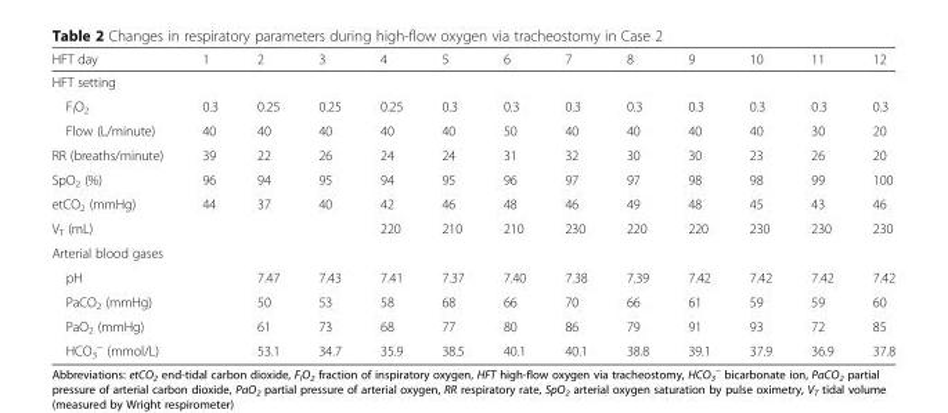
<table><thead><tr><td>HFT day</td><td>1</td><td>2</td><td>3</td><td>4</td><td>5</td><td>6</td><td>7</td><td>8</td><td>9</td><td>10</td><td>11</td><td>12</td></tr></thead><tbody><tr><td colspan="13">HFT setting</td></tr><tr><td>F<sub>I</sub>O<sub>2</sub></td><td>0.3</td><td>0.25</td><td>0.25</td><td>0.25</td><td>0.3</td><td>0.3</td><td>0.3</td><td>0.3</td><td>0.3</td><td>0.3</td><td>0.3</td><td>0.3</td></tr><tr><td>Flow (L/minute)</td><td>40</td><td>40</td><td>40</td><td>40</td><td>40</td><td>50</td><td>40</td><td>40</td><td>40</td><td>40</td><td>30</td><td>20</td></tr><tr><td>RR (breaths/minute)</td><td>39</td><td>22</td><td>26</td><td>24</td><td>24</td><td>31</td><td>32</td><td>30</td><td>30</td><td>23</td><td>26</td><td>20</td></tr><tr><td>SpO<sub>2</sub> (%)</td><td>96</td><td>94</td><td>95</td><td>94</td><td>95</td><td>96</td><td>97</td><td>97</td><td>98</td><td>98</td><td>99</td><td>100</td></tr><tr><td>etCO<sub>2</sub> (mmHg)</td><td>44</td><td>37</td><td>40</td><td>42</td><td>46</td><td>48</td><td>46</td><td>49</td><td>48</td><td>45</td><td>43</td><td>46</td></tr><tr><td>V<sub>T</sub> (mL)</td><td></td><td></td><td></td><td>220</td><td>210</td><td>210</td><td>230</td><td>220</td><td>220</td><td>230</td><td>230</td><td>230</td></tr><tr><td colspan="13">Arterial blood gases</td></tr><tr><td>pH</td><td></td><td>7.47</td><td>7.43</td><td>7.41</td><td>7.37</td><td>7.40</td><td>7.38</td><td>7.39</td><td>7.42</td><td>7.42</td><td>7.42</td><td>7.42</td></tr><tr><td>PaCO<sub>2</sub> (mmHg)</td><td></td><td>50</td><td>53</td><td>58</td><td>68</td><td>66</td><td>70</td><td>66</td><td>61</td><td>59</td><td>59</td><td>60</td></tr><tr><td>PaO<sub>2</sub> (mmHg)</td><td></td><td>61</td><td>73</td><td>68</td><td>77</td><td>80</td><td>86</td><td>79</td><td>91</td><td>93</td><td>72</td><td>85</td></tr><tr><td>HCO<sub>3</sub> <sup>−</sup> (mmol/L)</td><td></td><td>53.1</td><td>34.7</td><td>35.9</td><td>38.5</td><td>40.1</td><td>40.1</td><td>38.8</td><td>39.1</td><td>37.9</td><td>36.9</td><td>37.8</td></tr></tbody></table>